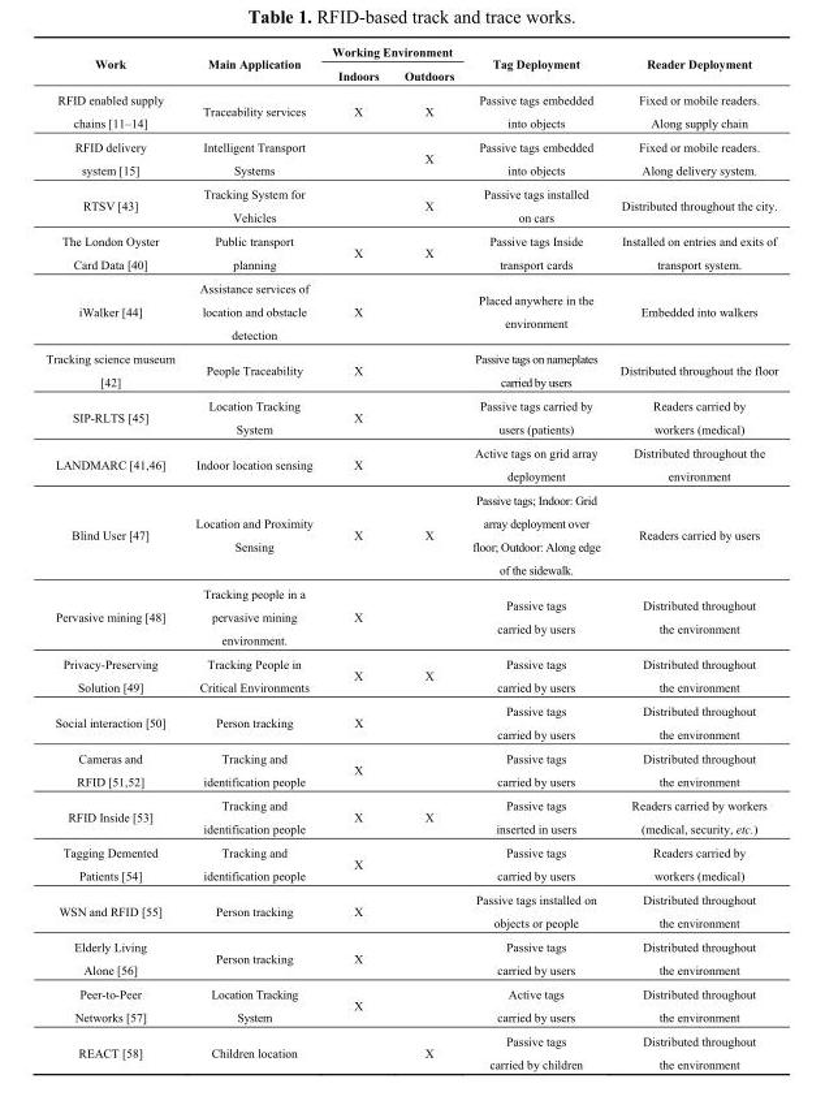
<table><thead><tr><td rowspan="2">Work</td><td rowspan="2">Main Application</td><td colspan="2">Working Environment</td><td rowspan="2">Tag Deployment</td><td rowspan="2">Reader Deployment</td></tr><tr><td>Indoors</td><td>Outdoors</td></tr></thead><tbody><tr><td>RFID enabled supply chains [11–14]</td><td>Traceability services</td><td>X</td><td>X</td><td>Passive tags embedded into objects</td><td>Fixed or mobile readers. Along supply chain</td></tr><tr><td>RFID delivery system [15]</td><td>Intelligent Transport Systems</td><td></td><td>X</td><td>Passive tags embedded into objects</td><td>Fixed or mobile readers. Along delivery system.</td></tr><tr><td>RTSV [43]</td><td>Tracking System for Vehicles</td><td></td><td>X</td><td>Passive tags installed on cars</td><td>Distributed throughout the city.</td></tr><tr><td>The London Oyster Card Data [40]</td><td>Public transport planning</td><td>X</td><td>X</td><td>Passive tags Inside transport cards</td><td>Installed on entries and exits of transport system.</td></tr><tr><td>iWalker [44]</td><td>Assistance services of location and obstacle detection</td><td>X</td><td></td><td>Placed anywhere in the environment</td><td>Embedded into walkers</td></tr><tr><td>Tracking science museum [42]</td><td>People Traceability</td><td>X</td><td></td><td>Passive tags on nameplates carried by users</td><td>Distributed throughout the floor</td></tr><tr><td>SIP-RLTS [45]</td><td>Location Tracking System</td><td>X</td><td></td><td>Passive tags carried by users (patients)</td><td>Readers carried by workers (medical)</td></tr><tr><td>LANDMARC [41,46]</td><td>Indoor location sensing</td><td>X</td><td></td><td>Active tags on grid array deployment</td><td>Distributed throughout the environment</td></tr><tr><td>Blind User [47]</td><td>Location and Proximity Sensing</td><td>X</td><td>X</td><td>Passive tags; Indoor: Grid array deployment over floor; Outdoor: Along edge of the sidewalk.</td><td>Readers carried by users</td></tr><tr><td>Pervasive mining [48]</td><td>Tracking people in a pervasive mining environment.</td><td>X</td><td></td><td>Passive tags carried by users</td><td>Distributed throughout the environment</td></tr><tr><td>Privacy-Preserving Solution [49]</td><td>Tracking People in Critical Environments</td><td>X</td><td>X</td><td>Passive tags carried by users</td><td>Distributed throughout the environment</td></tr><tr><td>Social interaction [50]</td><td>Person tracking</td><td>X</td><td></td><td>Passive tags carried by users</td><td>Distributed throughout the environment</td></tr><tr><td>Cameras and RFID [51,52]</td><td>Tracking and identification people</td><td>X</td><td></td><td>Passive tags carried by users</td><td>Distributed throughout the environment</td></tr><tr><td>RFID Inside [53]</td><td>Tracking and identification people</td><td>X</td><td>X</td><td>Passive tags inserted in users</td><td>Readers carried by workers (medical, security, etc.)</td></tr><tr><td>Tagging Demented Patients [54]</td><td>Tracking and identification people</td><td>X</td><td></td><td>Passive tags carried by users</td><td>Readers carried by workers (medical)</td></tr><tr><td>WSN and RFID [55]</td><td>Person tracking</td><td>X</td><td></td><td>Passive tags installed on objects or people</td><td>Distributed throughout the environment</td></tr><tr><td>Elderly Living Alone [56]</td><td>Person tracking</td><td>X</td><td></td><td>Passive tags carried by users</td><td>Distributed throughout the environment</td></tr><tr><td>Peer-to-Peer Networks [57]</td><td>Location Tracking System</td><td>X</td><td></td><td>Active tags carried by users</td><td>Distributed throughout the environment</td></tr><tr><td>REACT [58]</td><td>Children location</td><td></td><td>X</td><td>Passive tags carried by children</td><td>Distributed throughout the environment</td></tr></tbody></table>